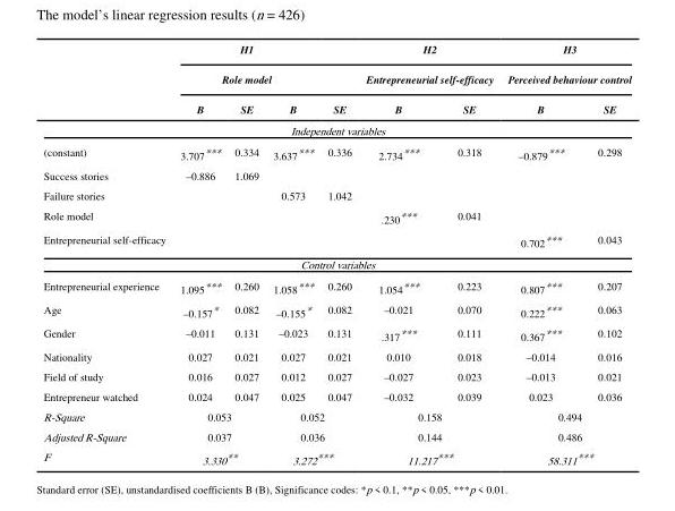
<table><thead><tr><td rowspan="3"></td><td rowspan="2" colspan="3">H1 Role model</td><td rowspan="3">SE</td><td rowspan="2" colspan="2">H2 Entrepreneurial self-efficacy</td><td rowspan="2" colspan="2">H3 Perceived behaviour control</td></tr><tr></tr><tr><td>B</td><td>SE</td><td>B</td><td>B</td><td>SE</td><td>B</td><td>SE</td></tr></thead><tbody><tr><td colspan="9">Independent variables</td></tr><tr><td>(constant)</td><td>3.707***</td><td>0.334</td><td>3.637***</td><td>0.336</td><td>2.734***</td><td>0.318</td><td>–0.879***</td><td>0.298</td></tr><tr><td>Success stories</td><td>–0.886</td><td>1.069</td><td></td><td></td><td></td><td></td><td></td><td></td></tr><tr><td>Failure stories</td><td></td><td></td><td>0.573</td><td>1.042</td><td></td><td></td><td></td><td></td></tr><tr><td>Role model</td><td></td><td></td><td></td><td></td><td>.230***</td><td>0.041</td><td></td><td></td></tr><tr><td>Entrepreneurial self-efficacy</td><td></td><td></td><td></td><td></td><td></td><td></td><td>0.702***</td><td>0.043</td></tr><tr><td colspan="9">Control variables</td></tr><tr><td>Entrepreneurial experience</td><td>1.095***</td><td>0.260</td><td>1.058***</td><td>0.260</td><td>1.054***</td><td>0.223</td><td>0.807***</td><td>0.207</td></tr><tr><td>Age</td><td>–0.157*</td><td>0.082</td><td>–0.155*</td><td>0.082</td><td>–0.021</td><td>0.070</td><td>0.222***</td><td>0.063</td></tr><tr><td>Gender</td><td>–0.011</td><td>0.131</td><td>–0.023</td><td>0.131</td><td>.317***</td><td>0.111</td><td>0.367***</td><td>0.102</td></tr><tr><td>Nationality</td><td>0.027</td><td>0.021</td><td>0.027</td><td>0.021</td><td>0.010</td><td>0.018</td><td>–0.014</td><td>0.016</td></tr><tr><td>Field of study</td><td>0.016</td><td>0.027</td><td>0.012</td><td>0.027</td><td>–0.027</td><td>0.023</td><td>–0.013</td><td>0.021</td></tr><tr><td>Entrepreneur watched</td><td>0.024</td><td>0.047</td><td>0.025</td><td>0.047</td><td>–0.032</td><td>0.039</td><td>0.023</td><td>0.036</td></tr><tr><td>R-Square</td><td colspan="2">0.053</td><td colspan="2">0.052</td><td colspan="2">0.158</td><td colspan="2">0.494</td></tr><tr><td>Adjusted R-Square</td><td colspan="2">0.037</td><td colspan="2">0.036</td><td colspan="2">0.144</td><td colspan="2">0.486</td></tr><tr><td>F</td><td colspan="2">3.330**</td><td colspan="2">3.272***</td><td colspan="2">11.217***</td><td colspan="2">58.311***</td></tr></tbody></table>